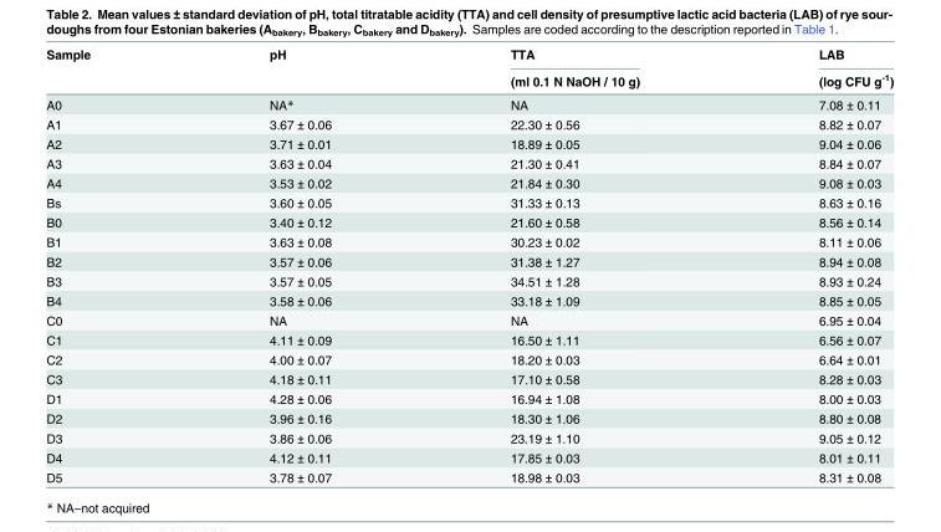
<table><thead><tr><td rowspan="2">Sample</td><td rowspan="2">pH</td><td rowspan="2">TTA (ml 0.1 N NaOH / 10 g)</td><td rowspan="2">LAB (log CFU g<sup>-1</sup>)</td></tr><tr></tr></thead><tbody><tr><td>A0</td><td>NA*</td><td>NA</td><td>7.08 ± 0.11</td></tr><tr><td>A1</td><td>3.67 ± 0.06</td><td>22.30 ± 0.56</td><td>8.82 ± 0.07</td></tr><tr><td>A2</td><td>3.71 ± 0.01</td><td>18.89 ± 0.05</td><td>9.04 ± 0.06</td></tr><tr><td>A3</td><td>3.63 ± 0.04</td><td>21.30 ± 0.41</td><td>8.84 ± 0.07</td></tr><tr><td>A4</td><td>3.53 ± 0.02</td><td>21.84 ± 0.30</td><td>9.08 ± 0.03</td></tr><tr><td>Bs</td><td>3.60 ± 0.05</td><td>31.33 ± 0.13</td><td>8.63 ± 0.16</td></tr><tr><td>B0</td><td>3.40 ± 0.12</td><td>21.60 ± 0.58</td><td>8.56 ± 0.14</td></tr><tr><td>B1</td><td>3.63 ± 0.08</td><td>30.23 ± 0.02</td><td>8.11 ± 0.06</td></tr><tr><td>B2</td><td>3.57 ± 0.06</td><td>31.38 ± 1.27</td><td>8.94 ± 0.08</td></tr><tr><td>B3</td><td>3.57 ± 0.05</td><td>34.51 ± 1.28</td><td>8.93 ± 0.24</td></tr><tr><td>B4</td><td>3.58 ± 0.06</td><td>33.18 ± 1.09</td><td>8.85 ± 0.05</td></tr><tr><td>C0</td><td>NA</td><td>NA</td><td>6.95 ± 0.04</td></tr><tr><td>C1</td><td>4.11 ± 0.09</td><td>16.50 ± 1.11</td><td>6.56 ± 0.07</td></tr><tr><td>C2</td><td>4.00 ± 0.07</td><td>18.20 ± 0.03</td><td>6.64 ± 0.01</td></tr><tr><td>C3</td><td>4.18 ± 0.11</td><td>17.10 ± 0.58</td><td>8.28 ± 0.03</td></tr><tr><td>D1</td><td>4.28 ± 0.06</td><td>16.94 ± 1.08</td><td>8.00 ± 0.03</td></tr><tr><td>D2</td><td>3.96 ± 0.16</td><td>18.30 ± 1.06</td><td>8.80 ± 0.08</td></tr><tr><td>D3</td><td>3.86 ± 0.06</td><td>23.19 ± 1.10</td><td>9.05 ± 0.12</td></tr><tr><td>D4</td><td>4.12 ± 0.11</td><td>17.85 ± 0.03</td><td>8.01 ± 0.11</td></tr><tr><td>D5</td><td>3.78 ± 0.07</td><td>18.98 ± 0.03</td><td>8.31 ± 0.08</td></tr></tbody></table>